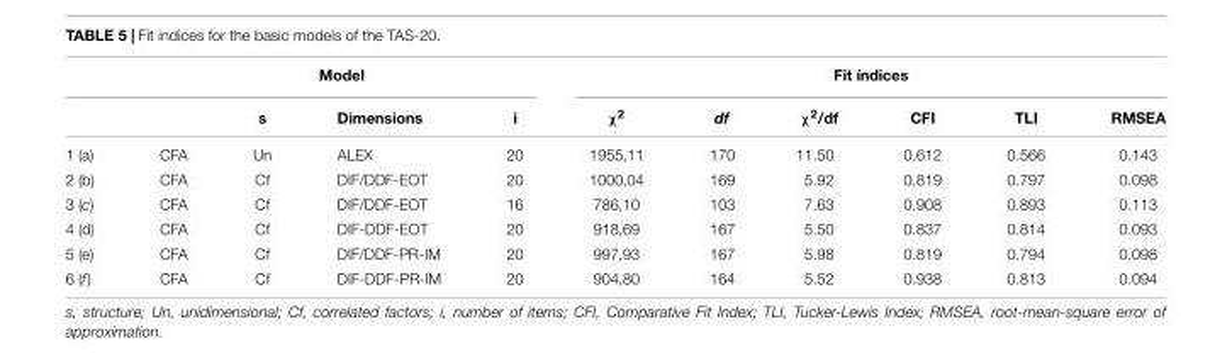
<table><thead><tr><td colspan="5">Model</td><td colspan="6">Fit índices</td></tr><tr><td></td><td></td><td>s</td><td>Dimensions</td><td>i</td><td>χ<sup>2</sup></td><td>df</td><td>χ<sup>2</sup>/df</td><td>CFI</td><td>TLI</td><td>RMSEA</td></tr></thead><tbody><tr><td>1 (a)</td><td>CFA</td><td>Un</td><td>ALEX</td><td>20</td><td>1955,11</td><td>170</td><td>11.50</td><td>0.612</td><td>0.566</td><td>0.143</td></tr><tr><td>2 (b)</td><td>CFA</td><td>Cf</td><td>DIF/DDF-EOT</td><td>20</td><td>1000,04</td><td>169</td><td>5.92</td><td>0.819</td><td>0.797</td><td>0.098</td></tr><tr><td>3 (c)</td><td>CFA</td><td>Cf</td><td>DIF/DDF-EOT</td><td>16</td><td>786,10</td><td>103</td><td>7.63</td><td>0.908</td><td>0.893</td><td>0.113</td></tr><tr><td>4 (d)</td><td>CFA</td><td>Cf</td><td>DIF-DDF-EOT</td><td>20</td><td>918,69</td><td>167</td><td>5.50</td><td>0.837</td><td>0.814</td><td>0.093</td></tr><tr><td>5 (e)</td><td>CFA</td><td>Cf</td><td>DIF/DDF-PR-IM</td><td>20</td><td>997,93</td><td>167</td><td>5.98</td><td>0.819</td><td>0.794</td><td>0.098</td></tr><tr><td>6 (f)</td><td>CFA</td><td>Cf</td><td>DIF-DDF-PR-IM</td><td>20</td><td>904,80</td><td>164</td><td>5.52</td><td>0.938</td><td>0.813</td><td>0.094</td></tr></tbody></table>